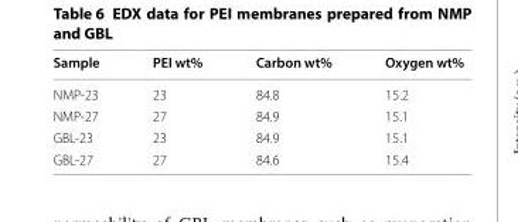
<table><thead><tr><td>Sample</td><td>PEI wt%</td><td>Carbon wt%</td><td>Oxygen wt%</td></tr></thead><tbody><tr><td>NMP‑23</td><td>23</td><td>84.8</td><td>15.2</td></tr><tr><td>NMP‑27</td><td>27</td><td>84.9</td><td>15.1</td></tr><tr><td>GBL‑23</td><td>23</td><td>84.9</td><td>15.1</td></tr><tr><td>GBL‑27</td><td>27</td><td>84.6</td><td>15.4</td></tr></tbody></table>